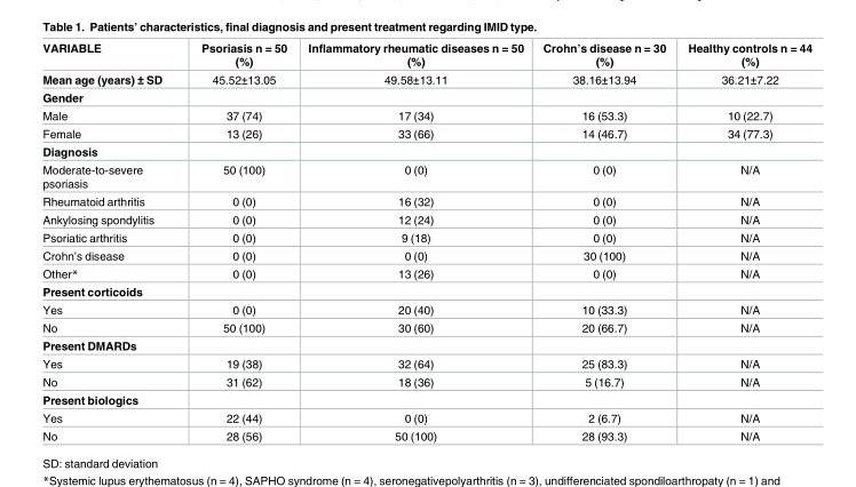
<table><thead><tr><td>VARIABLE</td><td>Psoriasis n = 50 (%)</td><td>Inflammatory rheumatic diseases n = 50 (%)</td><td>Crohn’s disease n = 30 (%)</td><td>Healthy controls n = 44 (%)</td></tr></thead><tbody><tr><td>Mean age (years) ± SD</td><td>45.52±13.05</td><td>49.58±13.11</td><td>38.16±13.94</td><td>36.21±7.22</td></tr><tr><td colspan="5">Gender</td></tr><tr><td>Male</td><td>37 (74)</td><td>17 (34)</td><td>16 (53.3)</td><td>10 (22.7)</td></tr><tr><td>Female</td><td>13 (26)</td><td>33 (66)</td><td>14 (46.7)</td><td>34 (77.3)</td></tr><tr><td colspan="5">Diagnosis</td></tr><tr><td>Moderate-to-severe psoriasis</td><td>50 (100)</td><td>0 (0)</td><td>0 (0)</td><td>N/A</td></tr><tr><td>Rheumatoid arthritis</td><td>0 (0)</td><td>16 (32)</td><td>0 (0)</td><td>N/A</td></tr><tr><td>Ankylosing spondylitis</td><td>0 (0)</td><td>12 (24)</td><td>0 (0)</td><td>N/A</td></tr><tr><td>Psoriatic arthritis</td><td>0 (0)</td><td>9 (18)</td><td>0 (0)</td><td>N/A</td></tr><tr><td>Crohn’s disease</td><td>0 (0)</td><td>0 (0)</td><td>30 (100)</td><td>N/A</td></tr><tr><td>Other*</td><td>0 (0)</td><td>13 (26)</td><td>0 (0)</td><td>N/A</td></tr><tr><td colspan="5">Present corticoids</td></tr><tr><td>Yes</td><td>0 (0)</td><td>20 (40)</td><td>10 (33.3)</td><td>N/A</td></tr><tr><td>No</td><td>50 (100)</td><td>30 (60)</td><td>20 (66.7)</td><td>N/A</td></tr><tr><td colspan="5">Present DMARDs</td></tr><tr><td>Yes</td><td>19 (38)</td><td>32 (64)</td><td>25 (83.3)</td><td>N/A</td></tr><tr><td>No</td><td>31 (62)</td><td>18 (36)</td><td>5 (16.7)</td><td>N/A</td></tr><tr><td colspan="5">Present biologics</td></tr><tr><td>Yes</td><td>22 (44)</td><td>0 (0)</td><td>2 (6.7)</td><td>N/A</td></tr><tr><td>No</td><td>28 (56)</td><td>50 (100)</td><td>28 (93.3)</td><td>N/A</td></tr></tbody></table>